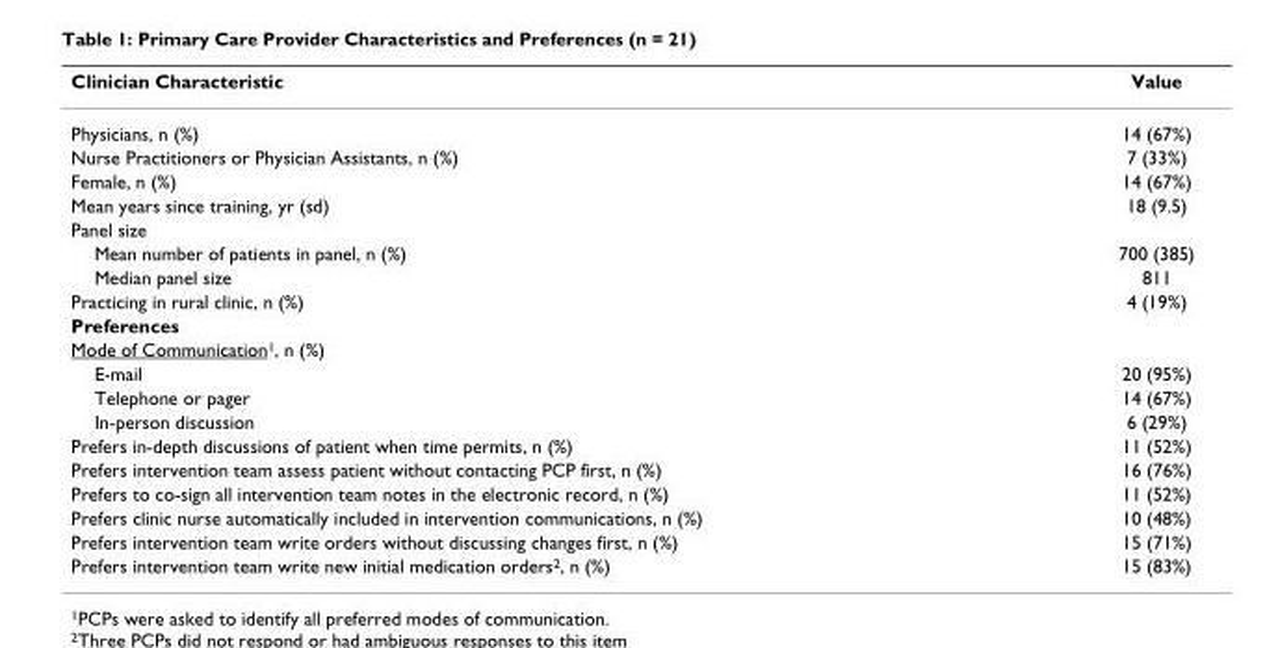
<table><thead><tr><td>Clinician Characteristic</td><td>Value</td></tr></thead><tbody><tr><td>Physicians, n (%)</td><td>14 (67%)</td></tr><tr><td>Nurse Practitioners or Physician Assistants, n (%)</td><td>7 (33%)</td></tr><tr><td>Female, n (%)</td><td>14 (67%)</td></tr><tr><td>Mean years since training, yr (sd)</td><td>18 (9.5)</td></tr><tr><td colspan="2">Panel size</td></tr><tr><td>Mean number of patients in panel, n (%)</td><td>700 (385)</td></tr><tr><td>Median panel size</td><td>811</td></tr><tr><td>Practicing in rural clinic, n (%)</td><td>4 (19%)</td></tr><tr><td colspan="2">Preferences</td></tr><tr><td colspan="2">Mode of Communication<sup>1</sup>, n (%)</td></tr><tr><td>E-mail</td><td>20 (95%)</td></tr><tr><td>Telephone or pager</td><td>14 (67%)</td></tr><tr><td>In-person discussion</td><td>6 (29%)</td></tr><tr><td>Prefers in-depth discussions of patient when time permits, n (%)</td><td>11 (52%)</td></tr><tr><td>Prefers intervention team assess patient without contacting PCP first, n (%)</td><td>16 (76%)</td></tr><tr><td>Prefers to co-sign all intervention team notes in the electronic record, n (%)</td><td>11 (52%)</td></tr><tr><td>Prefers clinic nurse automatically included in intervention communications, n (%)</td><td>10 (48%)</td></tr><tr><td>Prefers intervention team write orders without discussing changes first, n (%)</td><td>15 (71%)</td></tr><tr><td>Prefers intervention team write new initial medication orders<sup>2</sup>, n (%)</td><td>15 (83%)</td></tr></tbody></table>